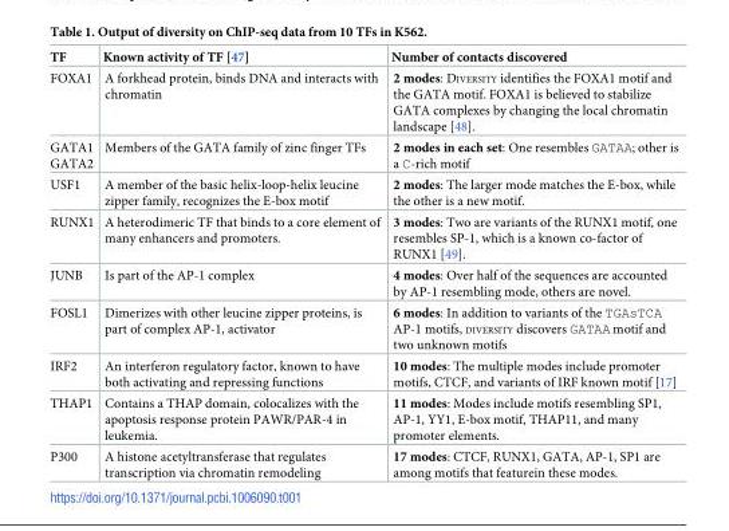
<table><thead><tr><td>TF</td><td>Known activity of TF [47]</td><td>Number of contacts discovered</td></tr></thead><tbody><tr><td>FOXA1</td><td>A forkhead protein, binds DNA and interacts with chromatin</td><td>2 modes: DIVERSITY identifies the FOXA1 motif and the GATA motif. FOXA1 is believed to stabilize GATA complexes by changing the local chromatin landscape [48].</td></tr><tr><td>GATA1 GATA2</td><td>Members of the GATA family of zinc finger TFs</td><td>2 modes in each set: One resembles GATAA; other is a C-rich motif</td></tr><tr><td>USF1</td><td>A member of the basic helix-loop-helix leucine zipper family, recognizes the E-box motif</td><td>2 modes: The larger mode matches the E-box, while the other is a new motif.</td></tr><tr><td>RUNX1</td><td>A heterodimeric TF that binds to a core element of many enhancers and promoters.</td><td>3 modes: Two are variants of the RUNX1 motif, one resembles SP-1, which is a known co-factor of RUNX1 [49].</td></tr><tr><td>JUNB</td><td>Is part of the AP-1 complex</td><td>4 modes: Over half of the sequences are accounted by AP-1 resembling mode, others are novel.</td></tr><tr><td>FOSL1</td><td>Dimerizes with other leucine zipper proteins, is part of complex AP-1, activator</td><td>6 modes: In addition to variants of the TGAsTCA AP-1 motifs, DIVERSITY discovers GATAA motif and two unknown motifs</td></tr><tr><td>IRF2</td><td>An interferon regulatory factor, known to have both activating and repressing functions</td><td>10 modes: The multiple modes include promoter motifs, CTCF, and variants of IRF known motif [17]</td></tr><tr><td>THAP1</td><td>Contains a THAP domain, colocalizes with the apoptosis response protein PAWR/PAR-4 in leukemia.</td><td>11 modes: Modes include motifs resembling SP1, AP-1, YY1, E-box motif, THAP11, and many promoter elements.</td></tr><tr><td>P300</td><td>A histone acetyltransferase that regulates transcription via chromatin remodeling</td><td>17 modes: CTCF, RUNX1, GATA, AP-1, SP1 are among motifs that featurein these modes.</td></tr></tbody></table>